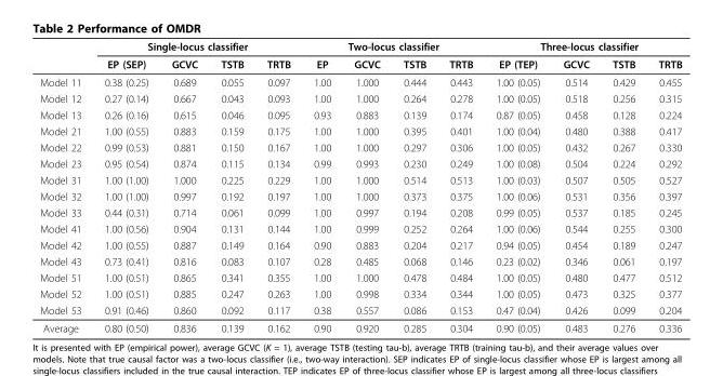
<table><thead><tr><td rowspan="2"></td><td colspan="4">Single-locus classifier</td><td colspan="4">Two-locus classifier</td><td colspan="4">Three-locus classifier</td></tr><tr><td>EP (SEP)</td><td>GCVC</td><td>TSTB</td><td>TRTB</td><td>EP</td><td>GCVC</td><td>TSTB</td><td>TRTB</td><td>EP (TEP)</td><td>GCVC</td><td>TSTB</td><td>TRTB</td></tr></thead><tbody><tr><td>Model 11</td><td>0.38 (0.25)</td><td>0.689</td><td>0.055</td><td>0.097</td><td>1.00</td><td>1.000</td><td>0.444</td><td>0.443</td><td>1.00 (0.05)</td><td>0.514</td><td>0.429</td><td>0.455</td></tr><tr><td>Model 12</td><td>0.27 (0.14)</td><td>0.667</td><td>0.043</td><td>0.093</td><td>1.00</td><td>1.000</td><td>0.264</td><td>0.278</td><td>1.00 (0.05)</td><td>0.518</td><td>0.256</td><td>0.315</td></tr><tr><td>Model 13</td><td>0.26 (0.16)</td><td>0.615</td><td>0.046</td><td>0.095</td><td>0.93</td><td>0.883</td><td>0.139</td><td>0.174</td><td>0.87 (0.05)</td><td>0.458</td><td>0.128</td><td>0.224</td></tr><tr><td>Model 21</td><td>1.00 (0.55)</td><td>0.883</td><td>0.159</td><td>0.175</td><td>1.00</td><td>1.000</td><td>0.395</td><td>0.401</td><td>1.00 (0.04)</td><td>0.480</td><td>0.388</td><td>0.417</td></tr><tr><td>Model 22</td><td>0.99 (0.53)</td><td>0.881</td><td>0.150</td><td>0.167</td><td>1.00</td><td>1.000</td><td>0.297</td><td>0.306</td><td>1.00 (0.05)</td><td>0.432</td><td>0.267</td><td>0.330</td></tr><tr><td>Model 23</td><td>0.95 (0.54)</td><td>0.874</td><td>0.115</td><td>0.134</td><td>0.99</td><td>0.993</td><td>0.230</td><td>0.249</td><td>1.00 (0.08)</td><td>0.504</td><td>0.224</td><td>0.292</td></tr><tr><td>Model 31</td><td>1.00 (1.00)</td><td>1.000</td><td>0.225</td><td>0.229</td><td>1.00</td><td>1.000</td><td>0.514</td><td>0.513</td><td>1.00 (0.03)</td><td>0.507</td><td>0.505</td><td>0.527</td></tr><tr><td>Model 32</td><td>1.00 (1.00)</td><td>0.997</td><td>0.192</td><td>0.197</td><td>1.00</td><td>1.000</td><td>0.373</td><td>0.375</td><td>1.00 (0.06)</td><td>0.531</td><td>0.356</td><td>0.397</td></tr><tr><td>Model 33</td><td>0.44 (0.31)</td><td>0.714</td><td>0.061</td><td>0.099</td><td>1.00</td><td>0.997</td><td>0.194</td><td>0.208</td><td>0.99 (0.05)</td><td>0.537</td><td>0.185</td><td>0.245</td></tr><tr><td>Model 41</td><td>1.00 (0.56)</td><td>0.904</td><td>0.131</td><td>0.144</td><td>1.00</td><td>0.999</td><td>0.252</td><td>0.264</td><td>1.00 (0.06)</td><td>0.544</td><td>0.255</td><td>0.300</td></tr><tr><td>Model 42</td><td>1.00 (0.55)</td><td>0.887</td><td>0.149</td><td>0.164</td><td>0.90</td><td>0.883</td><td>0.204</td><td>0.217</td><td>0.94 (0.05)</td><td>0.454</td><td>0.189</td><td>0.247</td></tr><tr><td>Model 43</td><td>0.73 (0.41)</td><td>0.816</td><td>0.083</td><td>0.107</td><td>0.28</td><td>0.485</td><td>0.068</td><td>0.146</td><td>0.23 (0.02)</td><td>0.346</td><td>0.061</td><td>0.197</td></tr><tr><td>Model 51</td><td>1.00 (0.51)</td><td>0.865</td><td>0.341</td><td>0.355</td><td>1.00</td><td>1.000</td><td>0.478</td><td>0.484</td><td>1.00 (0.05)</td><td>0.480</td><td>0.477</td><td>0.512</td></tr><tr><td>Model 52</td><td>1.00 (0.51)</td><td>0.885</td><td>0.247</td><td>0.263</td><td>1.00</td><td>0.998</td><td>0.334</td><td>0.344</td><td>1.00 (0.05)</td><td>0.473</td><td>0.325</td><td>0.377</td></tr><tr><td>Model 53</td><td>0.91 (0.46)</td><td>0.860</td><td>0.092</td><td>0.117</td><td>0.38</td><td>0.557</td><td>0.086</td><td>0.153</td><td>0.47 (0.04)</td><td>0.426</td><td>0.099</td><td>0.204</td></tr><tr><td>Average</td><td>0.80 (0.50)</td><td>0.836</td><td>0.139</td><td>0.162</td><td>0.90</td><td>0.920</td><td>0.285</td><td>0.304</td><td>0.90 (0.05)</td><td>0.483</td><td>0.276</td><td>0.336</td></tr></tbody></table>